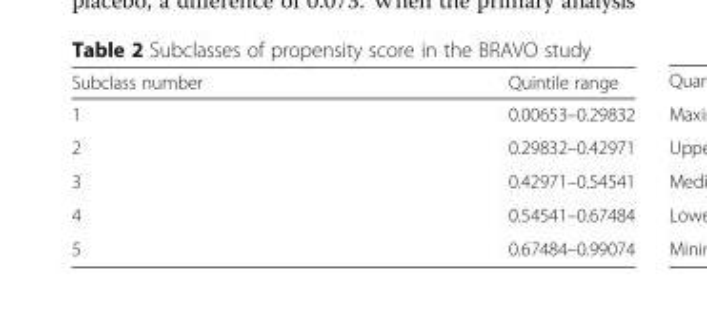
<table><thead><tr><td>Subclass number</td><td>Quintile range</td></tr></thead><tbody><tr><td>1</td><td>0.00653–0.29832</td></tr><tr><td>2</td><td>0.29832–0.42971</td></tr><tr><td>3</td><td>0.42971–0.54541</td></tr><tr><td>4</td><td>0.54541–0.67484</td></tr><tr><td>5</td><td>0.67484–0.99074</td></tr></tbody></table>